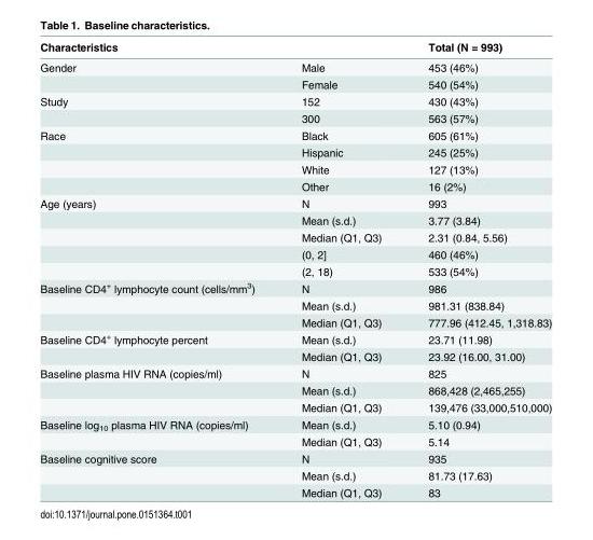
<table><thead><tr><td colspan="2">Characteristics</td><td rowspan="2">Total (N = 993) 453 (46%)</td></tr><tr><td>Gender</td><td>Male</td></tr></thead><tbody><tr><td></td><td>Female</td><td>540 (54%)</td></tr><tr><td rowspan="2">Study</td><td>152</td><td>430 (43%)</td></tr><tr><td>300</td><td>563 (57%)</td></tr><tr><td rowspan="4">Race</td><td>Black</td><td>605 (61%)</td></tr><tr><td>Hispanic</td><td>245 (25%)</td></tr><tr><td>White</td><td>127 (13%)</td></tr><tr><td>Other</td><td>16 (2%)</td></tr><tr><td rowspan="5">Age (years)</td><td>N</td><td>993</td></tr><tr><td>Mean (s.d.)</td><td>3.77 (3.84)</td></tr><tr><td>Median (Q1, Q3)</td><td>2.31 (0.84, 5.56)</td></tr><tr><td>(0, 2]</td><td>460 (46%)</td></tr><tr><td>(2, 18)</td><td>533 (54%)</td></tr><tr><td rowspan="3">Baseline CD4<sup>+</sup> lymphocyte count (cells/mm<sup>3</sup>)</td><td>N</td><td>986</td></tr><tr><td>Mean (s.d.)</td><td>981.31 (838.84)</td></tr><tr><td>Median (Q1, Q3)</td><td>777.96 (412.45, 1,318.83)</td></tr><tr><td rowspan="2">Baseline CD4<sup>+</sup> lymphocyte percent</td><td>Mean (s.d.)</td><td>23.71 (11.98)</td></tr><tr><td>Median (Q1, Q3)</td><td>23.92 (16.00, 31.00)</td></tr><tr><td rowspan="3">Baseline plasma HIV RNA (copies/ml)</td><td>N</td><td>825</td></tr><tr><td>Mean (s.d.)</td><td>868,428 (2,465,255)</td></tr><tr><td>Median (Q1, Q3)</td><td>139,476 (33,000,510,000)</td></tr><tr><td rowspan="2">Baseline log<sub>10</sub> plasma HIV RNA (copies/ml)</td><td>Mean (s.d.)</td><td>5.10 (0.94)</td></tr><tr><td>Median (Q1, Q3)</td><td>5.14</td></tr><tr><td rowspan="3">Baseline cognitive score</td><td>N</td><td>935</td></tr><tr><td>Mean (s.d.)</td><td>81.73 (17.63)</td></tr><tr><td>Median (Q1, Q3)</td><td>83</td></tr></tbody></table>